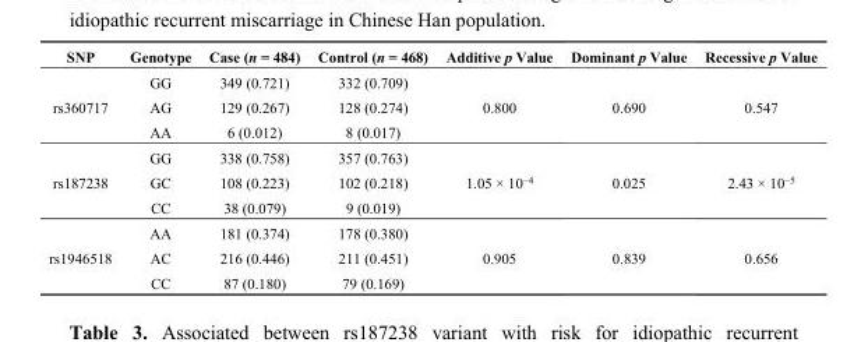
<table><thead><tr><td>SNP</td><td>Genotype</td><td>Case (n = 484)</td><td>Control (n = 468)</td><td>Additive p Value</td><td>Dominant p Value</td><td>Recessive p Value</td></tr></thead><tbody><tr><td rowspan="3">rs360717</td><td>GG</td><td>349 (0.721)</td><td>332 (0.709)</td><td rowspan="3">0.800</td><td rowspan="3">0.690</td><td rowspan="3">0.547</td></tr><tr><td>AG</td><td>129 (0.267)</td><td>128 (0.274)</td></tr><tr><td>AA</td><td>6 (0.012)</td><td>8 (0.017)</td></tr><tr><td rowspan="3">rs187238</td><td>GG</td><td>338 (0.758)</td><td>357 (0.763)</td><td rowspan="3">1.05 × 10<sup>−4</sup></td><td rowspan="3">0.025</td><td rowspan="3">2.43 × 10<sup>−5</sup></td></tr><tr><td>GC</td><td>108 (0.223)</td><td>102 (0.218)</td></tr><tr><td>CC</td><td>38 (0.079)</td><td>9 (0.019)</td></tr><tr><td rowspan="3">rs1946518</td><td>AA</td><td>181 (0.374)</td><td>178 (0.380)</td><td rowspan="3">0.905</td><td rowspan="3">0.839</td><td rowspan="3">0.656</td></tr><tr><td>AC</td><td>216 (0.446)</td><td>211 (0.451)</td></tr><tr><td>CC</td><td>87 (0.180)</td><td>79 (0.169)</td></tr></tbody></table>